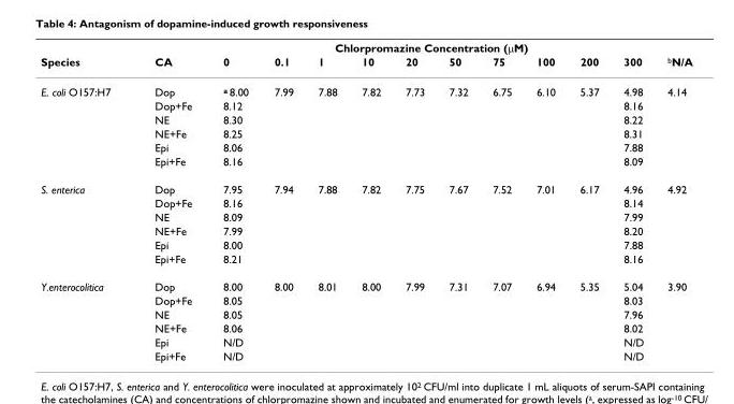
<table><thead><tr><td rowspan="2">Species</td><td colspan="12">Chlorpromazine Concentration (μM)</td></tr><tr><td>CA</td><td>0</td><td>0.1</td><td>1</td><td>10</td><td>20</td><td>50</td><td>75</td><td>100</td><td>200</td><td>300</td><td>bN/A</td></tr></thead><tbody><tr><td rowspan="6">E. coli O157:H7</td><td>Dop</td><td>a 8.00</td><td>7.99</td><td>7.88</td><td>7.82</td><td>7.73</td><td>7.32</td><td>6.75</td><td>6.10</td><td>5.37</td><td>4.98</td><td>4.14</td></tr><tr><td>Dop+Fe</td><td>8.12</td><td></td><td></td><td></td><td></td><td></td><td></td><td></td><td></td><td>8.16</td><td></td></tr><tr><td>NE</td><td>8.30</td><td></td><td></td><td></td><td></td><td></td><td></td><td></td><td></td><td>8.22</td><td></td></tr><tr><td>NE+Fe</td><td>8.25</td><td></td><td></td><td></td><td></td><td></td><td></td><td></td><td></td><td>8.31</td><td></td></tr><tr><td>Epi</td><td>8.06</td><td></td><td></td><td></td><td></td><td></td><td></td><td></td><td></td><td>7.88</td><td></td></tr><tr><td>Epi+Fe</td><td>8.16</td><td></td><td></td><td></td><td></td><td></td><td></td><td></td><td></td><td>8.09</td><td></td></tr><tr><td rowspan="6">S. enterica</td><td>Dop</td><td>7.95</td><td>7.94</td><td>7.88</td><td>7.82</td><td>7.75</td><td>7.67</td><td>7.52</td><td>7.01</td><td>6.17</td><td>4.96</td><td>4.92</td></tr><tr><td>Dop+Fe</td><td>8.16</td><td></td><td></td><td></td><td></td><td></td><td></td><td></td><td></td><td>8.14</td><td></td></tr><tr><td>NE</td><td>8.09</td><td></td><td></td><td></td><td></td><td></td><td></td><td></td><td></td><td>7.99</td><td></td></tr><tr><td>NE+Fe</td><td>7.99</td><td></td><td></td><td></td><td></td><td></td><td></td><td></td><td></td><td>8.20</td><td></td></tr><tr><td>Epi</td><td>8.00</td><td></td><td></td><td></td><td></td><td></td><td></td><td></td><td></td><td>7.88</td><td></td></tr><tr><td>Epi+Fe</td><td>8.21</td><td></td><td></td><td></td><td></td><td></td><td></td><td></td><td></td><td>8.16</td><td></td></tr><tr><td rowspan="6">Y.enterocolitica</td><td>Dop</td><td>8.00</td><td>8.00</td><td>8.01</td><td>8.00</td><td>7.99</td><td>7.31</td><td>7.07</td><td>6.94</td><td>5.35</td><td>5.04</td><td>3.90</td></tr><tr><td>Dop+Fe</td><td>8.05</td><td></td><td></td><td></td><td></td><td></td><td></td><td></td><td></td><td>8.03</td><td></td></tr><tr><td>NE</td><td>8.05</td><td></td><td></td><td></td><td></td><td></td><td></td><td></td><td></td><td>7.96</td><td></td></tr><tr><td>NE+Fe</td><td>8.06</td><td></td><td></td><td></td><td></td><td></td><td></td><td></td><td></td><td>8.02</td><td></td></tr><tr><td>Epi</td><td>N/D</td><td></td><td></td><td></td><td></td><td></td><td></td><td></td><td></td><td>N/D</td><td></td></tr><tr><td>Epi+Fe</td><td>N/D</td><td></td><td></td><td></td><td></td><td></td><td></td><td></td><td></td><td>N/D</td><td></td></tr></tbody></table>